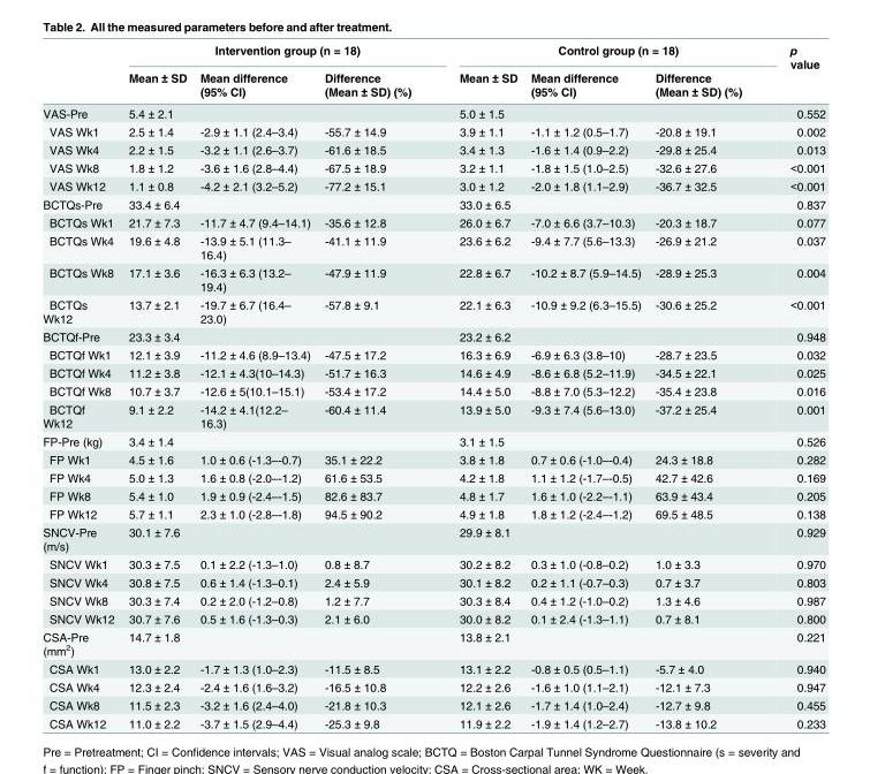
<table><thead><tr><td rowspan="2"></td><td colspan="3">Intervention group (n = 18)</td><td colspan="3">Control group (n = 18)</td><td rowspan="2">p value</td></tr><tr><td>Mean ± SD</td><td>Mean difference (95% CI)</td><td>Difference (Mean ± SD) (%)</td><td>Mean ± SD</td><td>Mean difference (95% CI)</td><td>Difference (Mean ± SD) (%)</td></tr></thead><tbody><tr><td>VAS-Pre</td><td>5.4 ± 2.1</td><td></td><td></td><td>5.0 ± 1.5</td><td></td><td></td><td>0.552</td></tr><tr><td>VAS Wk1</td><td>2.5 ± 1.4</td><td>-2.9 ± 1.1 (2.4–3.4)</td><td>-55.7 ± 14.9</td><td>3.9 ± 1.1</td><td>-1.1 ± 1.2 (0.5–1.7)</td><td>-20.8 ± 19.1</td><td>0.002</td></tr><tr><td>VAS Wk4</td><td>2.2 ± 1.5</td><td>-3.2 ± 1.1 (2.6–3.7)</td><td>-61.6 ± 18.5</td><td>3.4 ± 1.3</td><td>-1.6 ± 1.4 (0.9–2.2)</td><td>-29.8 ± 25.4</td><td>0.013</td></tr><tr><td>VAS Wk8</td><td>1.8 ± 1.2</td><td>-3.6 ± 1.6 (2.8–4.4)</td><td>-67.5 ± 18.9</td><td>3.2 ± 1.1</td><td>-1.8 ± 1.5 (1.0–2.5)</td><td>-32.6 ± 27.6</td><td>&lt;0.001</td></tr><tr><td>VAS Wk12</td><td>1.1 ± 0.8</td><td>-4.2 ± 2.1 (3.2–5.2)</td><td>-77.2 ± 15.1</td><td>3.0 ± 1.2</td><td>-2.0 ± 1.8 (1.1–2.9)</td><td>-36.7 ± 32.5</td><td>&lt;0.001</td></tr><tr><td>BCTQs-Pre</td><td>33.4 ± 6.4</td><td></td><td></td><td>33.0 ± 6.5</td><td></td><td></td><td>0.837</td></tr><tr><td>BCTQs Wk1</td><td>21.7 ± 7.3</td><td>-11.7 ± 4.7 (9.4–14.1)</td><td>-35.6 ± 12.8</td><td>26.0 ± 6.7</td><td>-7.0 ± 6.6 (3.7–10.3)</td><td>-20.3 ± 18.7</td><td>0.077</td></tr><tr><td>BCTQs Wk4</td><td>19.6 ± 4.8</td><td>-13.9 ± 5.1 (11.3– 16.4)</td><td>-41.1 ± 11.9</td><td>23.6 ± 6.2</td><td>-9.4 ± 7.7 (5.6–13.3)</td><td>-26.9 ± 21.2</td><td>0.037</td></tr><tr><td>BCTQs Wk8</td><td>17.1 ± 3.6</td><td>-16.3 ± 6.3 (13.2– 19.4)</td><td>-47.9 ± 11.9</td><td>22.8 ± 6.7</td><td>-10.2 ± 8.7 (5.9–14.5)</td><td>-28.9 ± 25.3</td><td>0.004</td></tr><tr><td>BCTQs Wk12</td><td>13.7 ± 2.1</td><td>-19.7 ± 6.7 (16.4– 23.0)</td><td>-57.8 ± 9.1</td><td>22.1 ± 6.3</td><td>-10.9 ± 9.2 (6.3–15.5)</td><td>-30.6 ± 25.2</td><td>&lt;0.001</td></tr><tr><td>BCTQf-Pre</td><td>23.3 ± 3.4</td><td></td><td></td><td>23.2 ± 6.2</td><td></td><td></td><td>0.948</td></tr><tr><td>BCTQf Wk1</td><td>12.1 ± 3.9</td><td>-11.2 ± 4.6 (8.9–13.4)</td><td>-47.5 ± 17.2</td><td>16.3 ± 6.9</td><td>-6.9 ± 6.3 (3.8–10)</td><td>-28.7 ± 23.5</td><td>0.032</td></tr><tr><td>BCTQf Wk4</td><td>11.2 ± 3.8</td><td>-12.1 ± 4.3(10–14.3)</td><td>-51.7 ± 16.3</td><td>14.6 ± 4.9</td><td>-8.6 ± 6.8 (5.2–11.9)</td><td>-34.5 ± 22.1</td><td>0.025</td></tr><tr><td>BCTQf Wk8</td><td>10.7 ± 3.7</td><td>-12.6 ± 5(10.1–15.1)</td><td>-53.4 ± 17.2</td><td>14.4 ± 5.0</td><td>-8.8 ± 7.0 (5.3–12.2)</td><td>-35.4 ± 23.8</td><td>0.016</td></tr><tr><td>BCTQf Wk12</td><td>9.1 ± 2.2</td><td>-14.2 ± 4.1(12.2– 16.3)</td><td>-60.4 ± 11.4</td><td>13.9 ± 5.0</td><td>-9.3 ± 7.4 (5.6–13.0)</td><td>-37.2 ± 25.4</td><td>0.001</td></tr><tr><td>FP-Pre (kg)</td><td>3.4 ± 1.4</td><td></td><td></td><td>3.1 ± 1.5</td><td></td><td></td><td>0.526</td></tr><tr><td>FP Wk1</td><td>4.5 ± 1.6</td><td>1.0 ± 0.6 (-1.3–-0.7)</td><td>35.1 ± 22.2</td><td>3.8 ± 1.8</td><td>0.7 ± 0.6 (-1.0–-0.4)</td><td>24.3 ± 18.8</td><td>0.282</td></tr><tr><td>FP Wk4</td><td>5.0 ± 1.3</td><td>1.6 ± 0.8 (-2.0–-1.2)</td><td>61.6 ± 53.5</td><td>4.2 ± 1.8</td><td>1.1 ± 1.2 (-1.7–-0.5)</td><td>42.7 ± 42.6</td><td>0.169</td></tr><tr><td>FP Wk8</td><td>5.4 ± 1.0</td><td>1.9 ± 0.9 (-2.4–-1.5)</td><td>82.6 ± 83.7</td><td>4.8 ± 1.7</td><td>1.6 ± 1.0 (-2.2–-1.1)</td><td>63.9 ± 43.4</td><td>0.205</td></tr><tr><td>FP Wk12</td><td>5.7 ± 1.1</td><td>2.3 ± 1.0 (-2.8–-1.8)</td><td>94.5 ± 90.2</td><td>4.9 ± 1.8</td><td>1.8 ± 1.2 (-2.4–-1.2)</td><td>69.5 ± 48.5</td><td>0.138</td></tr><tr><td>SNCV-Pre (m/s)</td><td>30.1 ± 7.6</td><td></td><td></td><td>29.9 ± 8.1</td><td></td><td></td><td>0.929</td></tr><tr><td>SNCV Wk1</td><td>30.3 ± 7.5</td><td>0.1 ± 2.2 (-1.3–1.0)</td><td>0.8 ± 8.7</td><td>30.2 ± 8.2</td><td>0.3 ± 1.0 (-0.8–0.2)</td><td>1.0 ± 3.3</td><td>0.970</td></tr><tr><td>SNCV Wk4</td><td>30.8 ± 7.5</td><td>0.6 ± 1.4 (-1.3–0.1)</td><td>2.4 ± 5.9</td><td>30.1 ± 8.2</td><td>0.2 ± 1.1 (-0.7–0.3)</td><td>0.7 ± 3.7</td><td>0.803</td></tr><tr><td>SNCV Wk8</td><td>30.3 ± 7.4</td><td>0.2 ± 2.0 (-1.2–0.8)</td><td>1.2 ± 7.7</td><td>30.3 ± 8.4</td><td>0.4 ± 1.2 (-1.0–0.2)</td><td>1.3 ± 4.6</td><td>0.987</td></tr><tr><td>SNCV Wk12</td><td>30.7 ± 7.6</td><td>0.5 ± 1.6 (-1.3–0.3)</td><td>2.1 ± 6.0</td><td>30.0 ± 8.2</td><td>0.1 ± 2.4 (-1.3–1.1)</td><td>0.7 ± 8.1</td><td>0.800</td></tr><tr><td>CSA-Pre (mm<sup>2</sup>)</td><td>14.7 ± 1.8</td><td></td><td></td><td>13.8 ± 2.1</td><td></td><td></td><td>0.221</td></tr><tr><td>CSA Wk1</td><td>13.0 ± 2.2</td><td>-1.7 ± 1.3 (1.0–2.3)</td><td>-11.5 ± 8.5</td><td>13.1 ± 2.2</td><td>-0.8 ± 0.5 (0.5–1.1)</td><td>-5.7 ± 4.0</td><td>0.940</td></tr><tr><td>CSA Wk4</td><td>12.3 ± 2.4</td><td>-2.4 ± 1.6 (1.6–3.2)</td><td>-16.5 ± 10.8</td><td>12.2 ± 2.6</td><td>-1.6 ± 1.0 (1.1–2.1)</td><td>-12.1 ± 7.3</td><td>0.947</td></tr><tr><td>CSA Wk8</td><td>11.5 ± 2.3</td><td>-3.2 ± 1.6 (2.4–4.0)</td><td>-21.8 ± 10.3</td><td>12.1 ± 2.6</td><td>-1.7 ± 1.4 (1.0–2.4)</td><td>-12.7 ± 9.8</td><td>0.455</td></tr><tr><td>CSA Wk12</td><td>11.0 ± 2.2</td><td>-3.7 ± 1.5 (2.9–4.4)</td><td>-25.3 ± 9.8</td><td>11.9 ± 2.2</td><td>-1.9 ± 1.4 (1.2–2.7)</td><td>-13.8 ± 10.2</td><td>0.233</td></tr></tbody></table>